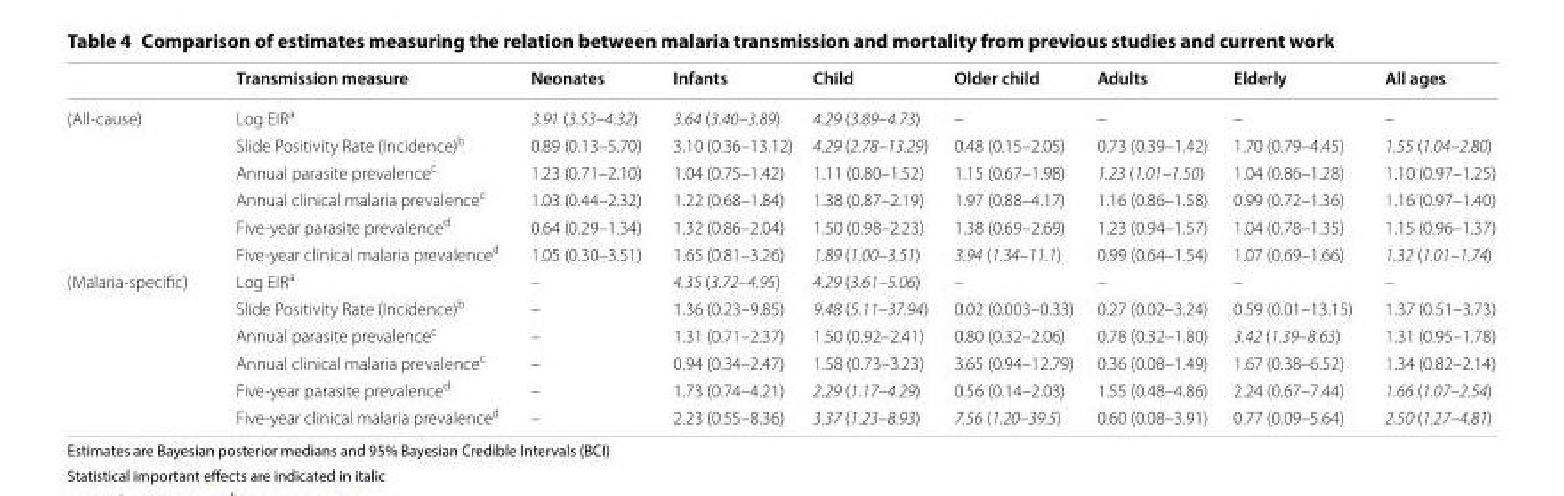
<table><thead><tr><td></td><td>Transmission measure</td><td>Neonates</td><td>Infants</td><td>Child</td><td>Older child</td><td>Adults</td><td>Elderly</td><td>All ages</td></tr></thead><tbody><tr><td rowspan="6">(All-cause)</td><td>Log EIR<sup>a</sup></td><td>3.91 (3.53–4.32)</td><td>3.64 (3.40–3.89)</td><td>4.29 (3.89–4.73)</td><td>–</td><td>–</td><td>–</td><td>–</td></tr><tr><td>Slide Positivity Rate (Incidence)<sup>b</sup></td><td>0.89 (0.13–5.70)</td><td>3.10 (0.36–13.12)</td><td>4.29 (2.78–13.29)</td><td>0.48 (0.15–2.05)</td><td>0.73 (0.39–1.42)</td><td>1.70 (0.79–4.45)</td><td>1.55 (1.04–2.80)</td></tr><tr><td>Annual parasite prevalence<sup>c</sup></td><td>1.23 (0.71–2.10)</td><td>1.04 (0.75–1.42)</td><td>1.11 (0.80–1.52)</td><td>1.15 (0.67–1.98)</td><td>1.23 (1.01–1.50)</td><td>1.04 (0.86–1.28)</td><td>1.10 (0.97–1.25)</td></tr><tr><td>Annual clinical malaria prevalence<sup>c</sup></td><td>1.03 (0.44–2.32)</td><td>1.22 (0.68–1.84)</td><td>1.38 (0.87–2.19)</td><td>1.97 (0.88–4.17)</td><td>1.16 (0.86–1.58)</td><td>0.99 (0.72–1.36)</td><td>1.16 (0.97–1.40)</td></tr><tr><td>Five-year parasite prevalence<sup>d</sup></td><td>0.64 (0.29–1.34)</td><td>1.32 (0.86–2.04)</td><td>1.50 (0.98–2.23)</td><td>1.38 (0.69–2.69)</td><td>1.23 (0.94–1.57)</td><td>1.04 (0.78–1.35)</td><td>1.15 (0.96–1.37)</td></tr><tr><td>Five-year clinical malaria prevalence<sup>d</sup></td><td>1.05 (0.30–3.51)</td><td>1.65 (0.81–3.26)</td><td>1.89 (1.00–3.51)</td><td>3.94 (1.34–11.1)</td><td>0.99 (0.64–1.54)</td><td>1.07 (0.69–1.66)</td><td>1.32 (1.01–1.74)</td></tr><tr><td rowspan="6">(Malaria-specific)</td><td>Log EIR<sup>a</sup></td><td>–</td><td>4.35 (3.72–4.95)</td><td>4.29 (3.61–5.06)</td><td>–</td><td>–</td><td>–</td><td>–</td></tr><tr><td>Slide Positivity Rate (Incidence)<sup>b</sup></td><td>–</td><td>1.36 (0.23–9.85)</td><td>9.48 (5.11–37.94)</td><td>0.02 (0.003–0.33)</td><td>0.27 (0.02–3.24)</td><td>0.59 (0.01–13.15)</td><td>1.37 (0.51–3.73)</td></tr><tr><td>Annual parasite prevalence<sup>c</sup></td><td>–</td><td>1.31 (0.71–2.37)</td><td>1.50 (0.92–2.41)</td><td>0.80 (0.32–2.06)</td><td>0.78 (0.32–1.80)</td><td>3.42 (1.39–8.63)</td><td>1.31 (0.95–1.78)</td></tr><tr><td>Annual clinical malaria prevalence<sup>c</sup></td><td>–</td><td>0.94 (0.34–2.47)</td><td>1.58 (0.73–3.23)</td><td>3.65 (0.94–12.79)</td><td>0.36 (0.08–1.49)</td><td>1.67 (0.38–6.52)</td><td>1.34 (0.82–2.14)</td></tr><tr><td>Five-year parasite prevalence<sup>d</sup></td><td>–</td><td>1.73 (0.74–4.21)</td><td>2.29 (1.17–4.29)</td><td>0.56 (0.14–2.03)</td><td>1.55 (0.48–4.86)</td><td>2.24 (0.67–7.44)</td><td>1.66 (1.07–2.54)</td></tr><tr><td>Five-year clinical malaria prevalence<sup>d</sup></td><td>–</td><td>2.23 (0.55–8.36)</td><td>3.37 (1.23–8.93)</td><td>7.56 (1.20–39.5)</td><td>0.60 (0.08–3.91)</td><td>0.77 (0.09–5.64)</td><td>2.50 (1.27–4.81)</td></tr></tbody></table>